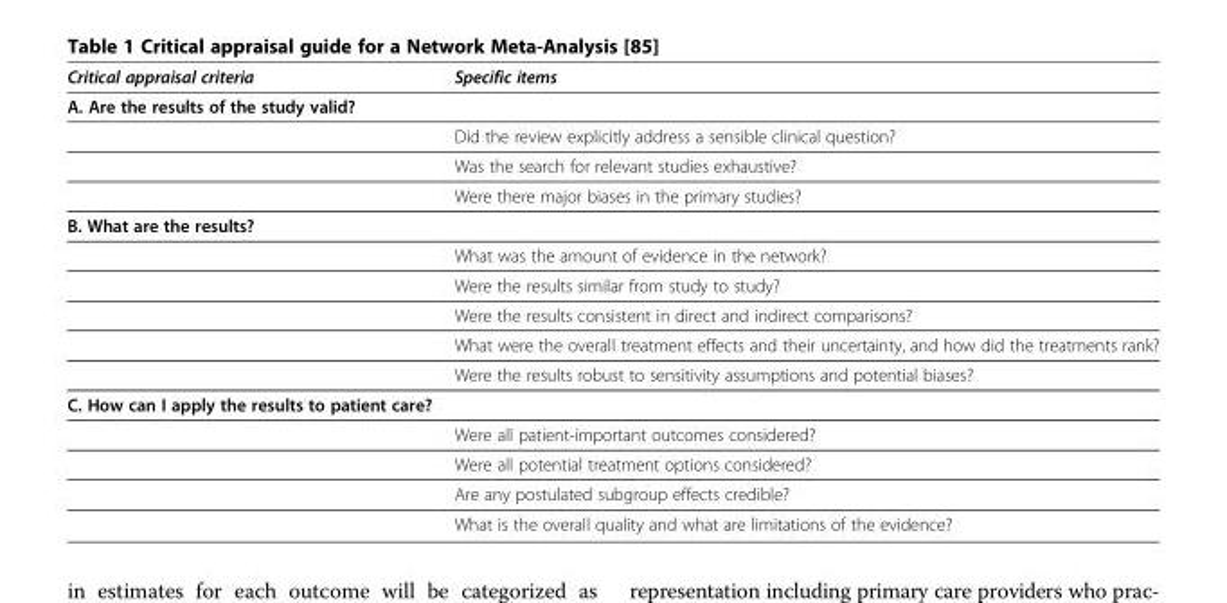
<table><thead><tr><td>Critical appraisal criteria</td><td>Specific items</td></tr></thead><tbody><tr><td colspan="2">A. Are the results of the study valid?</td></tr><tr><td></td><td>Did the review explicitly address a sensible clinical question?</td></tr><tr><td></td><td>Was the search for relevant studies exhaustive?</td></tr><tr><td></td><td>Were there major biases in the primary studies?</td></tr><tr><td colspan="2">B. What are the results?</td></tr><tr><td></td><td>What was the amount of evidence in the network?</td></tr><tr><td></td><td>Were the results similar from study to study?</td></tr><tr><td></td><td>Were the results consistent in direct and indirect comparisons?</td></tr><tr><td></td><td>What were the overall treatment effects and their uncertainty, and how did the treatments rank?</td></tr><tr><td></td><td>Were the results robust to sensitivity assumptions and potential biases?</td></tr><tr><td colspan="2">C. How can I apply the results to patient care?</td></tr><tr><td></td><td>Were all patient-important outcomes considered?</td></tr><tr><td></td><td>Were all potential treatment options considered?</td></tr><tr><td></td><td>Are any postulated subgroup effects credible?</td></tr><tr><td></td><td>What is the overall quality and what are limitations of the evidence?</td></tr></tbody></table>